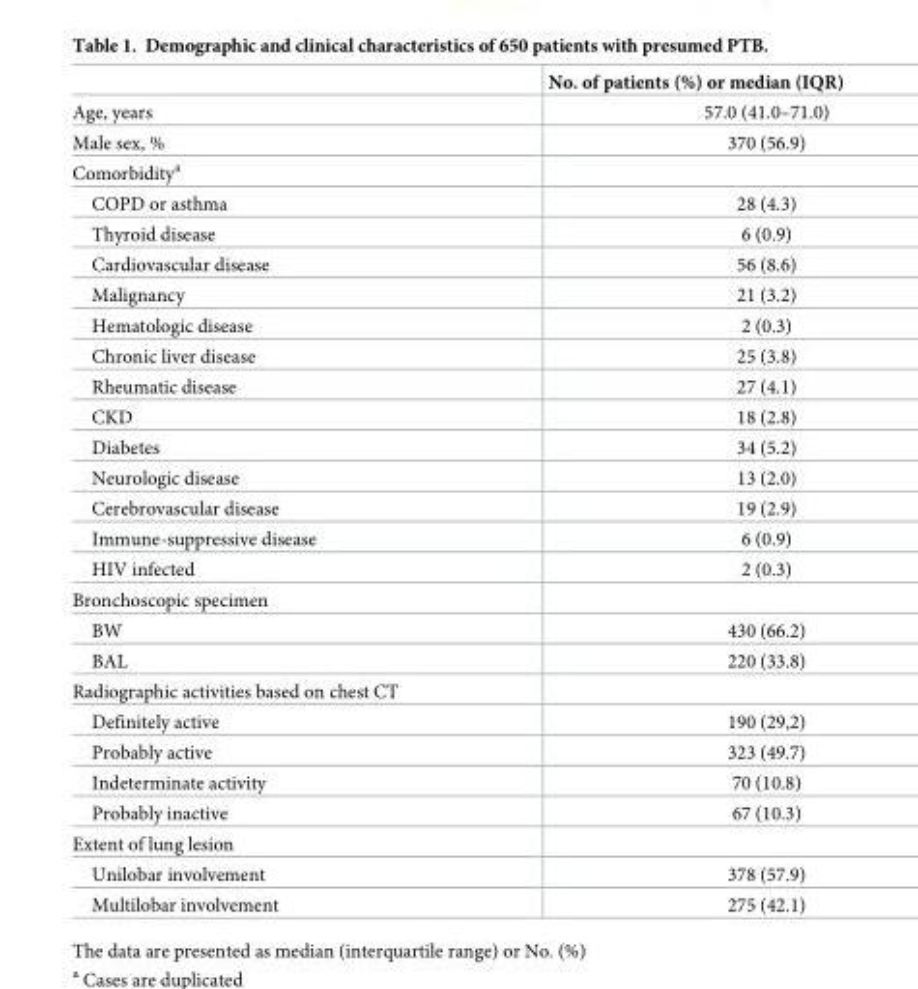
<table><thead><tr><td></td><td>No. of patients (%) or median (IQR)</td></tr></thead><tbody><tr><td>Age, years</td><td>57.0 (41.0–71.0)</td></tr><tr><td>Male sex, %</td><td>370 (56.9)</td></tr><tr><td colspan="2">Comorbidity<sup>a</sup></td></tr><tr><td>COPD or asthma</td><td>28 (4.3)</td></tr><tr><td>Thyroid disease</td><td>6 (0.9)</td></tr><tr><td>Cardiovascular disease</td><td>56 (8.6)</td></tr><tr><td>Malignancy</td><td>21 (3.2)</td></tr><tr><td>Hematologic disease</td><td>2 (0.3)</td></tr><tr><td>Chronic liver disease</td><td>25 (3.8)</td></tr><tr><td>Rheumatic disease</td><td>27 (4.1)</td></tr><tr><td>CKD</td><td>18 (2.8)</td></tr><tr><td>Diabetes</td><td>34 (5.2)</td></tr><tr><td>Neurologic disease</td><td>13 (2.0)</td></tr><tr><td>Cerebrovascular disease</td><td>19 (2.9)</td></tr><tr><td>Immune-suppressive disease</td><td>6 (0.9)</td></tr><tr><td>HIV infected</td><td>2 (0.3)</td></tr><tr><td colspan="2">Bronchoscopic specimen</td></tr><tr><td>BW</td><td>430 (66.2)</td></tr><tr><td>BAL</td><td>220 (33.8)</td></tr><tr><td colspan="2">Radiographic activities based on chest CT</td></tr><tr><td>Definitely active</td><td>190 (29,2)</td></tr><tr><td>Probably active</td><td>323 (49.7)</td></tr><tr><td>Indeterminate activity</td><td>70 (10.8)</td></tr><tr><td>Probably inactive</td><td>67 (10.3)</td></tr><tr><td colspan="2">Extent of lung lesion</td></tr><tr><td>Unilobar involvement</td><td>378 (57.9)</td></tr><tr><td>Multilobar involvement</td><td>275 (42.1)</td></tr></tbody></table>